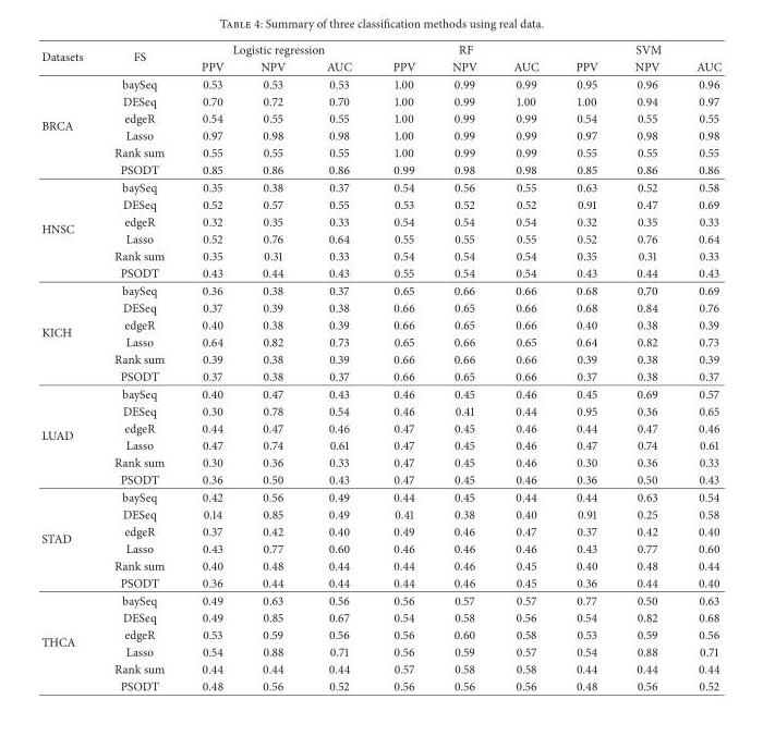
<table><thead><tr><td rowspan="2">Datasets</td><td rowspan="2">FS</td><td colspan="3">Logistic regression</td><td colspan="3">RF</td><td colspan="3">SVM</td></tr><tr><td>PPV</td><td>NPV</td><td>AUC</td><td>PPV</td><td>NPV</td><td>AUC</td><td>PPV</td><td>NPV</td><td>AUC</td></tr></thead><tbody><tr><td rowspan="6">BRCA</td><td>baySeq</td><td>0.53</td><td>0.53</td><td>0.53</td><td>1.00</td><td>0.99</td><td>0.99</td><td>0.95</td><td>0.96</td><td>0.96</td></tr><tr><td>DESeq</td><td>0.70</td><td>0.72</td><td>0.70</td><td>1.00</td><td>0.99</td><td>1.00</td><td>1.00</td><td>0.94</td><td>0.97</td></tr><tr><td>edgeR</td><td>0.54</td><td>0.55</td><td>0.55</td><td>1.00</td><td>0.99</td><td>0.99</td><td>0.54</td><td>0.55</td><td>0.55</td></tr><tr><td>Lasso</td><td>0.97</td><td>0.98</td><td>0.98</td><td>1.00</td><td>0.99</td><td>0.99</td><td>0.97</td><td>0.98</td><td>0.98</td></tr><tr><td>Rank sum</td><td>0.55</td><td>0.55</td><td>0.55</td><td>1.00</td><td>0.99</td><td>0.99</td><td>0.55</td><td>0.55</td><td>0.55</td></tr><tr><td>PSODT</td><td>0.85</td><td>0.86</td><td>0.86</td><td>0.99</td><td>0.98</td><td>0.98</td><td>0.85</td><td>0.86</td><td>0.86</td></tr><tr><td rowspan="6">HNSC</td><td>baySeq</td><td>0.35</td><td>0.38</td><td>0.37</td><td>0.54</td><td>0.56</td><td>0.55</td><td>0.63</td><td>0.52</td><td>0.58</td></tr><tr><td>DESeq</td><td>0.52</td><td>0.57</td><td>0.55</td><td>0.53</td><td>0.52</td><td>0.52</td><td>0.91</td><td>0.47</td><td>0.69</td></tr><tr><td>edgeR</td><td>0.32</td><td>0.35</td><td>0.33</td><td>0.54</td><td>0.54</td><td>0.54</td><td>0.32</td><td>0.35</td><td>0.33</td></tr><tr><td>Lasso</td><td>0.52</td><td>0.76</td><td>0.64</td><td>0.55</td><td>0.55</td><td>0.55</td><td>0.52</td><td>0.76</td><td>0.64</td></tr><tr><td>Rank sum</td><td>0.35</td><td>0.31</td><td>0.33</td><td>0.54</td><td>0.54</td><td>0.54</td><td>0.35</td><td>0.31</td><td>0.33</td></tr><tr><td>PSODT</td><td>0.43</td><td>0.44</td><td>0.43</td><td>0.55</td><td>0.54</td><td>0.54</td><td>0.43</td><td>0.44</td><td>0.43</td></tr><tr><td rowspan="6">KICH</td><td>baySeq</td><td>0.36</td><td>0.38</td><td>0.37</td><td>0.65</td><td>0.66</td><td>0.66</td><td>0.68</td><td>0.70</td><td>0.69</td></tr><tr><td>DESeq</td><td>0.37</td><td>0.39</td><td>0.38</td><td>0.66</td><td>0.65</td><td>0.66</td><td>0.68</td><td>0.84</td><td>0.76</td></tr><tr><td>edgeR</td><td>0.40</td><td>0.38</td><td>0.39</td><td>0.66</td><td>0.65</td><td>0.66</td><td>0.40</td><td>0.38</td><td>0.39</td></tr><tr><td>Lasso</td><td>0.64</td><td>0.82</td><td>0.73</td><td>0.65</td><td>0.66</td><td>0.65</td><td>0.64</td><td>0.82</td><td>0.73</td></tr><tr><td>Rank sum</td><td>0.39</td><td>0.38</td><td>0.39</td><td>0.66</td><td>0.66</td><td>0.66</td><td>0.39</td><td>0.38</td><td>0.39</td></tr><tr><td>PSODT</td><td>0.37</td><td>0.38</td><td>0.37</td><td>0.66</td><td>0.65</td><td>0.66</td><td>0.37</td><td>0.38</td><td>0.37</td></tr><tr><td rowspan="6">LUAD</td><td>baySeq</td><td>0.40</td><td>0.47</td><td>0.43</td><td>0.46</td><td>0.45</td><td>0.46</td><td>0.45</td><td>0.69</td><td>0.57</td></tr><tr><td>DESeq</td><td>0.30</td><td>0.78</td><td>0.54</td><td>0.46</td><td>0.41</td><td>0.44</td><td>0.95</td><td>0.36</td><td>0.65</td></tr><tr><td>edgeR</td><td>0.44</td><td>0.47</td><td>0.46</td><td>0.47</td><td>0.45</td><td>0.46</td><td>0.44</td><td>0.47</td><td>0.46</td></tr><tr><td>Lasso</td><td>0.47</td><td>0.74</td><td>0.61</td><td>0.47</td><td>0.45</td><td>0.46</td><td>0.47</td><td>0.74</td><td>0.61</td></tr><tr><td>Rank sum</td><td>0.30</td><td>0.36</td><td>0.33</td><td>0.47</td><td>0.45</td><td>0.46</td><td>0.30</td><td>0.36</td><td>0.33</td></tr><tr><td>PSODT</td><td>0.36</td><td>0.50</td><td>0.43</td><td>0.47</td><td>0.45</td><td>0.46</td><td>0.36</td><td>0.50</td><td>0.43</td></tr><tr><td rowspan="6">STAD</td><td>baySeq</td><td>0.42</td><td>0.56</td><td>0.49</td><td>0.44</td><td>0.45</td><td>0.44</td><td>0.44</td><td>0.63</td><td>0.54</td></tr><tr><td>DESeq</td><td>0.14</td><td>0.85</td><td>0.49</td><td>0.41</td><td>0.38</td><td>0.40</td><td>0.91</td><td>0.25</td><td>0.58</td></tr><tr><td>edgeR</td><td>0.37</td><td>0.42</td><td>0.40</td><td>0.49</td><td>0.46</td><td>0.47</td><td>0.37</td><td>0.42</td><td>0.40</td></tr><tr><td>Lasso</td><td>0.43</td><td>0.77</td><td>0.60</td><td>0.46</td><td>0.46</td><td>0.46</td><td>0.43</td><td>0.77</td><td>0.60</td></tr><tr><td>Rank sum</td><td>0.40</td><td>0.48</td><td>0.44</td><td>0.44</td><td>0.46</td><td>0.45</td><td>0.40</td><td>0.48</td><td>0.44</td></tr><tr><td>PSODT</td><td>0.36</td><td>0.44</td><td>0.44</td><td>0.44</td><td>0.46</td><td>0.45</td><td>0.36</td><td>0.44</td><td>0.40</td></tr><tr><td rowspan="6">THCA</td><td>baySeq</td><td>0.49</td><td>0.63</td><td>0.56</td><td>0.56</td><td>0.57</td><td>0.57</td><td>0.77</td><td>0.50</td><td>0.63</td></tr><tr><td>DESeq</td><td>0.49</td><td>0.85</td><td>0.67</td><td>0.54</td><td>0.58</td><td>0.56</td><td>0.54</td><td>0.82</td><td>0.68</td></tr><tr><td>edgeR</td><td>0.53</td><td>0.59</td><td>0.56</td><td>0.56</td><td>0.60</td><td>0.58</td><td>0.53</td><td>0.59</td><td>0.56</td></tr><tr><td>Lasso</td><td>0.54</td><td>0.88</td><td>0.71</td><td>0.56</td><td>0.59</td><td>0.57</td><td>0.54</td><td>0.88</td><td>0.71</td></tr><tr><td>Rank sum</td><td>0.44</td><td>0.44</td><td>0.44</td><td>0.57</td><td>0.58</td><td>0.58</td><td>0.44</td><td>0.44</td><td>0.44</td></tr><tr><td>PSODT</td><td>0.48</td><td>0.56</td><td>0.52</td><td>0.56</td><td>0.56</td><td>0.56</td><td>0.48</td><td>0.56</td><td>0.52</td></tr></tbody></table>